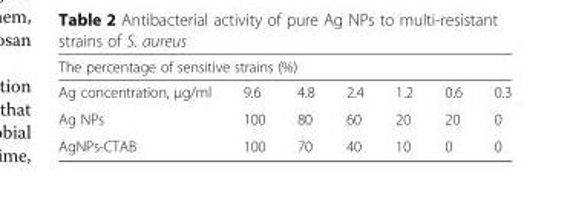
<table><thead><tr><td colspan="7">The percentage of sensitive strains (%)</td></tr><tr><td>Ag concentration, μg/ml</td><td>9.6</td><td>4.8</td><td>2.4</td><td>1.2</td><td>0.6</td><td>0.3</td></tr></thead><tbody><tr><td>Ag NPs</td><td>100</td><td>80</td><td>60</td><td>20</td><td>20</td><td>0</td></tr><tr><td>AgNPs-CTAB</td><td>100</td><td>70</td><td>40</td><td>10</td><td>0</td><td>0</td></tr></tbody></table>